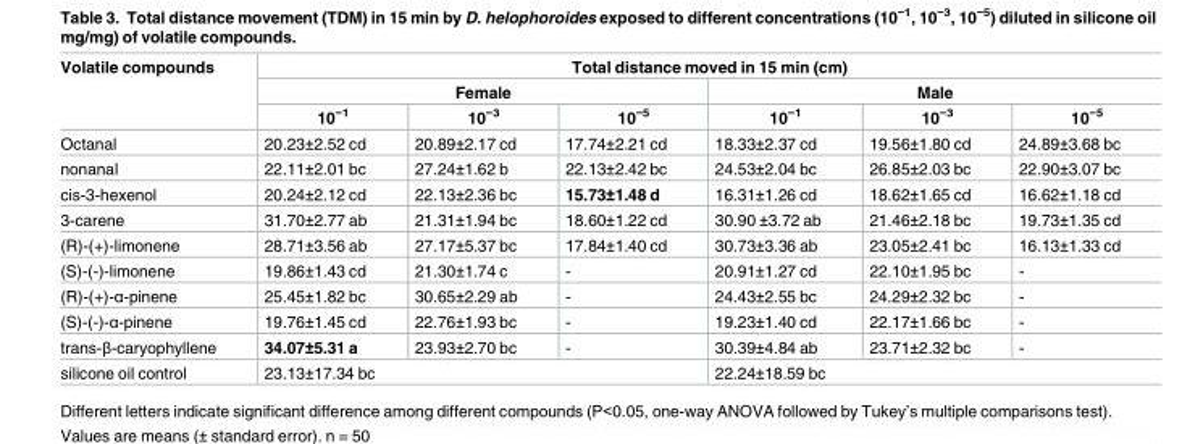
<table><thead><tr><td rowspan="3">Volatile compounds</td><td colspan="6">Total distance moved in 15 min (cm)</td></tr><tr><td colspan="3">Female</td><td colspan="3">Male</td></tr><tr><td>10<sup>−1</sup></td><td>10<sup>−3</sup></td><td>10<sup>−5</sup></td><td>10<sup>−1</sup></td><td>10<sup>−3</sup></td><td>10<sup>−5</sup></td></tr></thead><tbody><tr><td>Octanal</td><td>20.23±2.52 cd</td><td>20.89±2.17 cd</td><td>17.74±2.21 cd</td><td>18.33±2.37 cd</td><td>19.56±1.80 cd</td><td>24.89±3.68 bc</td></tr><tr><td>nonanal</td><td>22.11±2.01 bc</td><td>27.24±1.62 b</td><td>22.13±2.42 bc</td><td>24.53±2.04 bc</td><td>26.85±2.03 bc</td><td>22.90±3.07 bc</td></tr><tr><td>cis-3-hexenol</td><td>20.24±2.12 cd</td><td>22.13±2.36 bc</td><td>15.73±1.48 d</td><td>16.31±1.26 cd</td><td>18.62±1.65 cd</td><td>16.62±1.18 cd</td></tr><tr><td>3-carene</td><td>31.70±2.77 ab</td><td>21.31±1.94 bc</td><td>18.60±1.22 cd</td><td>30.90 ±3.72 ab</td><td>21.46±2.18 bc</td><td>19.73±1.35 cd</td></tr><tr><td>(R)-(+)-limonene</td><td>28.71±3.56 ab</td><td>27.17±5.37 bc</td><td>17.84±1.40 cd</td><td>30.73±3.36 ab</td><td>23.05±2.41 bc</td><td>16.13±1.33 cd</td></tr><tr><td>(S)-(-)-limonene</td><td>19.86±1.43 cd</td><td>21.30±1.74 c</td><td>-</td><td>20.91±1.27 cd</td><td>22.10±1.95 bc</td><td>-</td></tr><tr><td>(R)-(+)-α-pinene</td><td>25.45±1.82 bc</td><td>30.65±2.29 ab</td><td>-</td><td>24.43±2.55 bc</td><td>24.29±2.32 bc</td><td>-</td></tr><tr><td>(S)-(-)-α-pinene</td><td>19.76±1.45 cd</td><td>22.76±1.93 bc</td><td>-</td><td>19.23±1.40 cd</td><td>22.17±1.66 bc</td><td>-</td></tr><tr><td>trans-β-caryophyllene</td><td>34.07±5.31 a</td><td>23.93±2.70 bc</td><td>-</td><td>30.39±4.84 ab</td><td>23.71±2.32 bc</td><td>-</td></tr><tr><td>silicone oil control</td><td colspan="3">23.13±17.34 bc</td><td colspan="3">22.24±18.59 bc</td></tr></tbody></table>